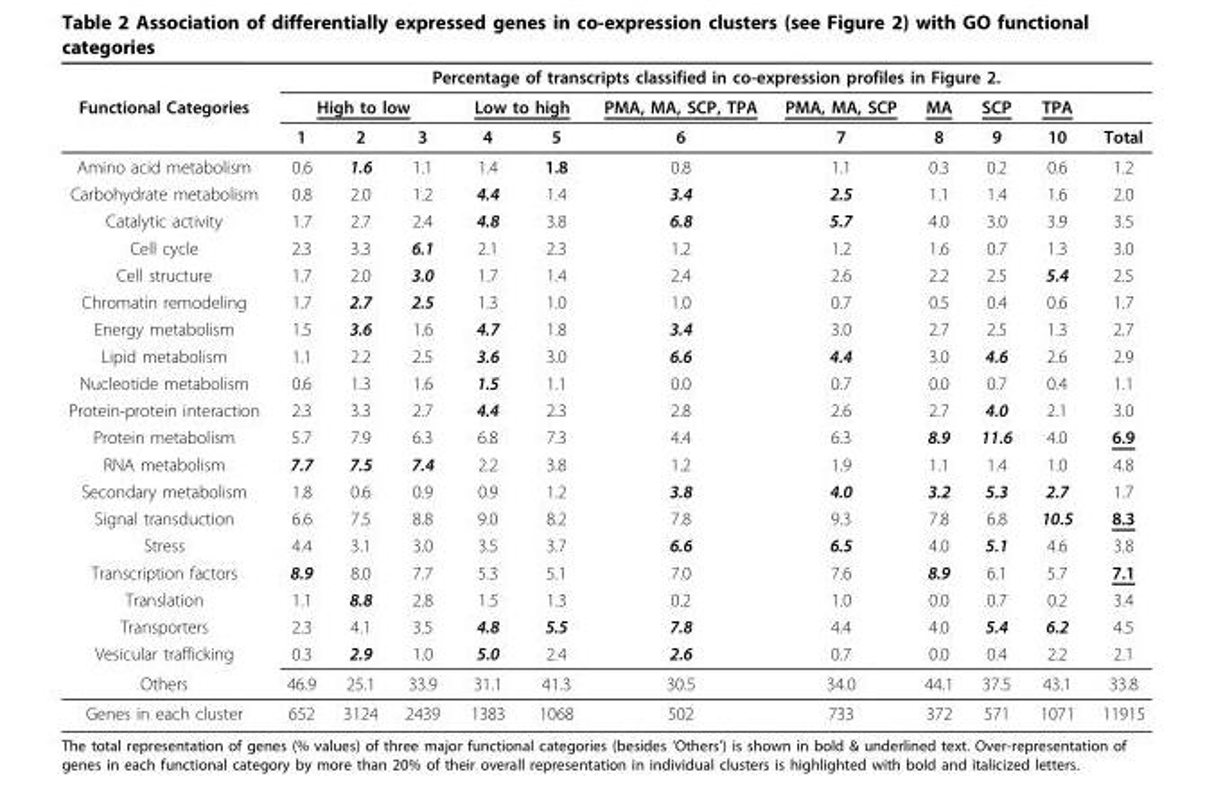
<table><thead><tr><td rowspan="3">Functional Categories</td><td colspan="11">Percentage of transcripts classified in co-expression profiles in Figure 2.</td></tr><tr><td colspan="3">High to low</td><td colspan="2">Low to high</td><td rowspan="2">PMA, MA, SCP, TPA 6</td><td rowspan="2">PMA, MA, SCP 7</td><td rowspan="2">MA 8</td><td rowspan="2">SCP 9</td><td rowspan="2">TPA 10</td><td rowspan="2">Total</td></tr><tr><td>1</td><td>2</td><td>3</td><td>4</td><td>5</td></tr></thead><tbody><tr><td>Amino acid metabolism</td><td>0.6</td><td>1.6</td><td>1.1</td><td>1.4</td><td>1.8</td><td>0.8</td><td>1.1</td><td>0.3</td><td>0.2</td><td>0.6</td><td>1.2</td></tr><tr><td>Carbohydrate metabolism</td><td>0.8</td><td>2.0</td><td>1.2</td><td>4.4</td><td>1.4</td><td>3.4</td><td>2.5</td><td>1.1</td><td>1.4</td><td>1.6</td><td>2.0</td></tr><tr><td>Catalytic activity</td><td>1.7</td><td>2.7</td><td>2.4</td><td>4.8</td><td>3.8</td><td>6.8</td><td>5.7</td><td>4.0</td><td>3.0</td><td>3.9</td><td>3.5</td></tr><tr><td>Cell cycle</td><td>2.3</td><td>3.3</td><td>6.1</td><td>2.1</td><td>2.3</td><td>1.2</td><td>1.2</td><td>1.6</td><td>0.7</td><td>1.3</td><td>3.0</td></tr><tr><td>Cell structure</td><td>1.7</td><td>2.0</td><td>3.0</td><td>1.7</td><td>1.4</td><td>2.4</td><td>2.6</td><td>2.2</td><td>2.5</td><td>5.4</td><td>2.5</td></tr><tr><td>Chromatin remodeling</td><td>1.7</td><td>2.7</td><td>2.5</td><td>1.3</td><td>1.0</td><td>1.0</td><td>0.7</td><td>0.5</td><td>0.4</td><td>0.6</td><td>1.7</td></tr><tr><td>Energy metabolism</td><td>1.5</td><td>3.6</td><td>1.6</td><td>4.7</td><td>1.8</td><td>3.4</td><td>3.0</td><td>2.7</td><td>2.5</td><td>1.3</td><td>2.7</td></tr><tr><td>Lipid metabolism</td><td>1.1</td><td>2.2</td><td>2.5</td><td>3.6</td><td>3.0</td><td>6.6</td><td>4.4</td><td>3.0</td><td>4.6</td><td>2.6</td><td>2.9</td></tr><tr><td>Nucleotide metabolism</td><td>0.6</td><td>1.3</td><td>1.6</td><td>1.5</td><td>1.1</td><td>0.0</td><td>0.7</td><td>0.0</td><td>0.7</td><td>0.4</td><td>1.1</td></tr><tr><td>Protein-protein interaction</td><td>2.3</td><td>3.3</td><td>2.7</td><td>4.4</td><td>2.3</td><td>2.8</td><td>2.6</td><td>2.7</td><td>4.0</td><td>2.1</td><td>3.0</td></tr><tr><td>Protein metabolism</td><td>5.7</td><td>7.9</td><td>6.3</td><td>6.8</td><td>7.3</td><td>4.4</td><td>6.3</td><td>8.9</td><td>11.6</td><td>4.0</td><td>6.9</td></tr><tr><td>RNA metabolism</td><td>7.7</td><td>7.5</td><td>7.4</td><td>2.2</td><td>3.8</td><td>1.2</td><td>1.9</td><td>1.1</td><td>1.4</td><td>1.0</td><td>4.8</td></tr><tr><td>Secondary metabolism</td><td>1.8</td><td>0.6</td><td>0.9</td><td>0.9</td><td>1.2</td><td>3.8</td><td>4.0</td><td>3.2</td><td>5.3</td><td>2.7</td><td>1.7</td></tr><tr><td>Signal transduction</td><td>6.6</td><td>7.5</td><td>8.8</td><td>9.0</td><td>8.2</td><td>7.8</td><td>9.3</td><td>7.8</td><td>6.8</td><td>10.5</td><td>8.3</td></tr><tr><td>Stress</td><td>4.4</td><td>3.1</td><td>3.0</td><td>3.5</td><td>3.7</td><td>6.6</td><td>6.5</td><td>4.0</td><td>5.1</td><td>4.6</td><td>3.8</td></tr><tr><td>Transcription factors</td><td>8.9</td><td>8.0</td><td>7.7</td><td>5.3</td><td>5.1</td><td>7.0</td><td>7.6</td><td>8.9</td><td>6.1</td><td>5.7</td><td>7.1</td></tr><tr><td>Translation</td><td>1.1</td><td>8.8</td><td>2.8</td><td>1.5</td><td>1.3</td><td>0.2</td><td>1.0</td><td>0.0</td><td>0.7</td><td>0.2</td><td>3.4</td></tr><tr><td>Transporters</td><td>2.3</td><td>4.1</td><td>3.5</td><td>4.8</td><td>5.5</td><td>7.8</td><td>4.4</td><td>4.0</td><td>5.4</td><td>6.2</td><td>4.5</td></tr><tr><td>Vesicular trafficking</td><td>0.3</td><td>2.9</td><td>1.0</td><td>5.0</td><td>2.4</td><td>2.6</td><td>0.7</td><td>0.0</td><td>0.4</td><td>2.2</td><td>2.1</td></tr><tr><td>Others</td><td>46.9</td><td>25.1</td><td>33.9</td><td>31.1</td><td>41.3</td><td>30.5</td><td>34.0</td><td>44.1</td><td>37.5</td><td>43.1</td><td>33.8</td></tr><tr><td>Genes in each cluster</td><td>652</td><td>3124</td><td>2439</td><td>1383</td><td>1068</td><td>502</td><td>733</td><td>372</td><td>571</td><td>1071</td><td>11915</td></tr></tbody></table>